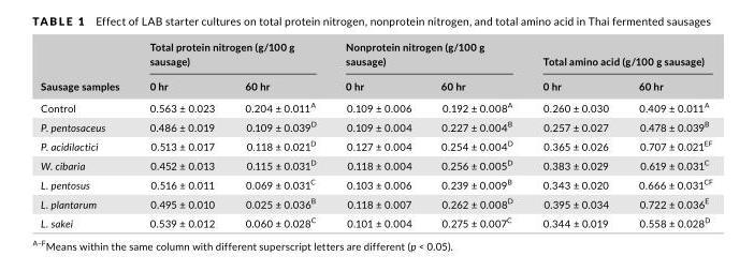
<table><thead><tr><td rowspan="2">Sausage samples</td><td colspan="2">Total protein nitrogen (g/100 g sausage)</td><td colspan="2">Nonprotein nitrogen (g/100 g sausage)</td><td colspan="2">Total amino acid (g/100 g sausage)</td></tr><tr><td>0 hr</td><td>60 hr</td><td>0 hr</td><td>60 hr</td><td>0 hr</td><td>60 hr</td></tr></thead><tbody><tr><td>Control</td><td>0.563 ± 0.023</td><td>0.204 ± 0.011<sup>A</sup></td><td>0.109 ± 0.006</td><td>0.192 ± 0.008<sup>A</sup></td><td>0.260 ± 0.030</td><td>0.409 ± 0.011<sup>A</sup></td></tr><tr><td>P. pentosaceus</td><td>0.486 ± 0.019</td><td>0.109 ± 0.039<sup>D</sup></td><td>0.109 ± 0.004</td><td>0.227 ± 0.004<sup>B</sup></td><td>0.257 ± 0.027</td><td>0.478 ± 0.039<sup>B</sup></td></tr><tr><td>P. acidilactici</td><td>0.513 ± 0.017</td><td>0.118 ± 0.021<sup>D</sup></td><td>0.127 ± 0.004</td><td>0.254 ± 0.004<sup>D</sup></td><td>0.365 ± 0.026</td><td>0.707 ± 0.021<sup>EF</sup></td></tr><tr><td>W. cibaria</td><td>0.452 ± 0.013</td><td>0.115 ± 0.031<sup>D</sup></td><td>0.118 ± 0.004</td><td>0.256 ± 0.005<sup>D</sup></td><td>0.383 ± 0.029</td><td>0.619 ± 0.031<sup>C</sup></td></tr><tr><td>L. pentosus</td><td>0.516 ± 0.011</td><td>0.069 ± 0.031<sup>C</sup></td><td>0.103 ± 0.006</td><td>0.239 ± 0.009<sup>B</sup></td><td>0.343 ± 0.020</td><td>0.666 ± 0.031<sup>CF</sup></td></tr><tr><td>L. plantarum</td><td>0.495 ± 0.010</td><td>0.025 ± 0.036<sup>B</sup></td><td>0.118 ± 0.007</td><td>0.262 ± 0.008<sup>D</sup></td><td>0.395 ± 0.034</td><td>0.722 ± 0.036<sup>E</sup></td></tr><tr><td>L. sakei</td><td>0.539 ± 0.012</td><td>0.060 ± 0.028<sup>C</sup></td><td>0.101 ± 0.004</td><td>0.275 ± 0.007<sup>C</sup></td><td>0.344 ± 0.019</td><td>0.558 ± 0.028<sup>D</sup></td></tr></tbody></table>